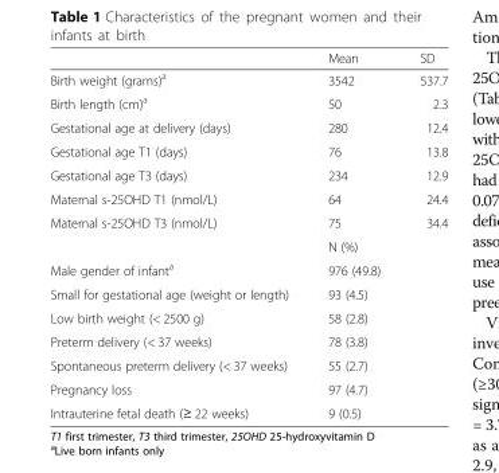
<table><thead><tr><td></td><td>Mean</td><td>SD</td></tr></thead><tbody><tr><td>Birth weight (grams)<sup>a</sup></td><td>3542</td><td>537.7</td></tr><tr><td>Birth length (cm)<sup>a</sup></td><td>50</td><td>2.3</td></tr><tr><td>Gestational age at delivery (days)</td><td>280</td><td>12.4</td></tr><tr><td>Gestational age T1 (days)</td><td>76</td><td>13.8</td></tr><tr><td>Gestational age T3 (days)</td><td>234</td><td>12.9</td></tr><tr><td>Maternal s-25OHD T1 (nmol/L)</td><td>64</td><td>24.4</td></tr><tr><td rowspan="2">Maternal s-25OHD T3 (nmol/L)</td><td>75</td><td>34.4</td></tr><tr><td>N (%)</td><td></td></tr><tr><td>Male gender of infant<sup>a</sup></td><td>976 (49.8)</td><td></td></tr><tr><td>Small for gestational age (weight or length)</td><td>93 (4.5)</td><td></td></tr><tr><td>Low birth weight (&lt; 2500 g)</td><td>58 (2.8)</td><td></td></tr><tr><td>Preterm delivery (&lt; 37 weeks)</td><td>78 (3.8)</td><td></td></tr><tr><td>Spontaneous preterm delivery (&lt; 37 weeks)</td><td>55 (2.7)</td><td></td></tr><tr><td>Pregnancy loss</td><td>97 (4.7)</td><td></td></tr><tr><td>Intrauterine fetal death (≥ 22 weeks)</td><td>9 (0.5)</td><td></td></tr></tbody></table>